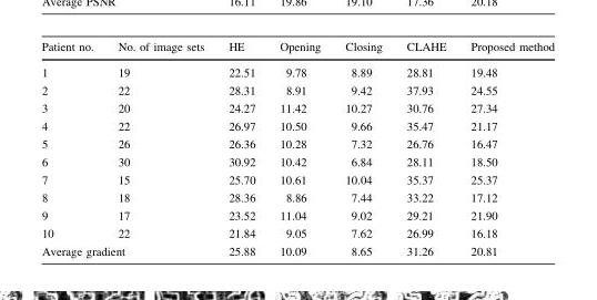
<table><thead><tr><td>Patient no.</td><td>No. of image sets</td><td>HE</td><td>Opening</td><td>Closing</td><td>CLAHE</td><td>Proposed method</td></tr></thead><tbody><tr><td>1</td><td>19</td><td>22.51</td><td>9.78</td><td>8.89</td><td>28.81</td><td>19.48</td></tr><tr><td>2</td><td>22</td><td>28.31</td><td>8.91</td><td>9.42</td><td>37.93</td><td>24.55</td></tr><tr><td>3</td><td>20</td><td>24.27</td><td>11.42</td><td>10.27</td><td>30.76</td><td>27.34</td></tr><tr><td>4</td><td>22</td><td>26.97</td><td>10.50</td><td>9.66</td><td>35.47</td><td>21.17</td></tr><tr><td>5</td><td>26</td><td>26.36</td><td>10.28</td><td>7.32</td><td>26.76</td><td>16.47</td></tr><tr><td>6</td><td>30</td><td>30.92</td><td>10.42</td><td>6.84</td><td>28.11</td><td>18.50</td></tr><tr><td>7</td><td>15</td><td>25.70</td><td>10.61</td><td>10.04</td><td>35.37</td><td>25.37</td></tr><tr><td>8</td><td>18</td><td>28.36</td><td>8.86</td><td>7.44</td><td>33.22</td><td>17.12</td></tr><tr><td>9</td><td>17</td><td>23.52</td><td>11.04</td><td>9.02</td><td>29.21</td><td>21.90</td></tr><tr><td>10</td><td>22</td><td>21.84</td><td>9.05</td><td>7.62</td><td>26.99</td><td>16.18</td></tr><tr><td colspan="2">Average gradient</td><td>25.88</td><td>10.09</td><td>8.65</td><td>31.26</td><td>20.81</td></tr></tbody></table>